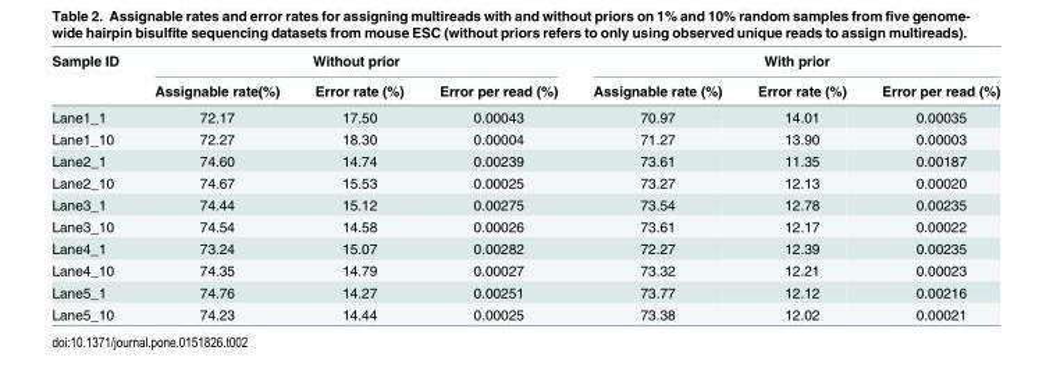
<table><thead><tr><td rowspan="2">Sample ID</td><td colspan="3">Without prior</td><td colspan="3">With prior</td></tr><tr><td>Assignable rate(%)</td><td>Error rate (%)</td><td>Error per read (%)</td><td>Assignable rate (%)</td><td>Error rate (%)</td><td>Error per read (%)</td></tr></thead><tbody><tr><td>Lane1_1</td><td>72.17</td><td>17.50</td><td>0.00043</td><td>70.97</td><td>14.01</td><td>0.00035</td></tr><tr><td>Lane1_10</td><td>72.27</td><td>18.30</td><td>0.00004</td><td>71.27</td><td>13.90</td><td>0.00003</td></tr><tr><td>Lane2_1</td><td>74.60</td><td>14.74</td><td>0.00239</td><td>73.61</td><td>11.35</td><td>0.00187</td></tr><tr><td>Lane2_10</td><td>74.67</td><td>15.53</td><td>0.00025</td><td>73.27</td><td>12.13</td><td>0.00020</td></tr><tr><td>Lane3_1</td><td>74.44</td><td>15.12</td><td>0.00275</td><td>73.54</td><td>12.78</td><td>0.00235</td></tr><tr><td>Lane3_10</td><td>74.54</td><td>14.58</td><td>0.00026</td><td>73.61</td><td>12.17</td><td>0.00022</td></tr><tr><td>Lane4_1</td><td>73.24</td><td>15.07</td><td>0.00282</td><td>72.27</td><td>12.39</td><td>0.00235</td></tr><tr><td>Lane4_10</td><td>74.35</td><td>14.79</td><td>0.00027</td><td>73.32</td><td>12.21</td><td>0.00023</td></tr><tr><td>Lane5_1</td><td>74.76</td><td>14.27</td><td>0.00251</td><td>73.77</td><td>12.12</td><td>0.00216</td></tr><tr><td>Lane5_10</td><td>74.23</td><td>14.44</td><td>0.00025</td><td>73.38</td><td>12.02</td><td>0.00021</td></tr></tbody></table>